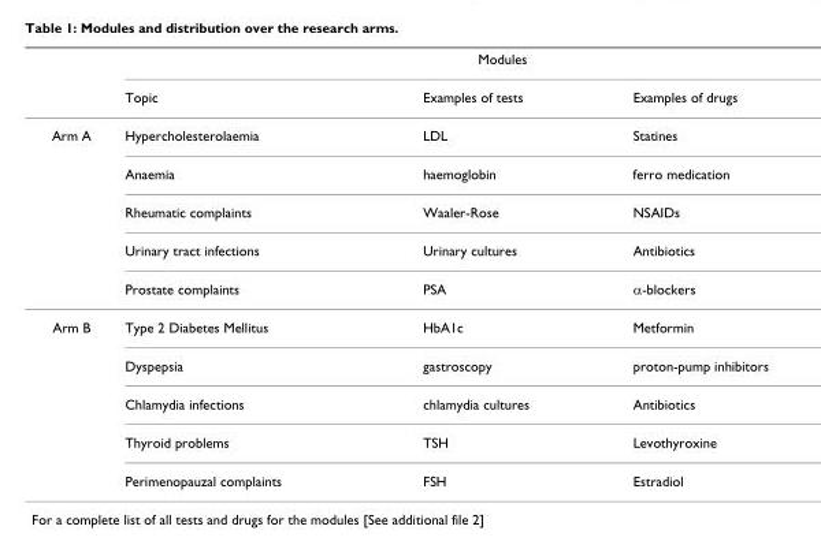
<table><thead><tr><td rowspan="2"></td><td colspan="3">Modules</td></tr><tr><td>Topic</td><td>Examples of tests</td><td>Examples of drugs</td></tr></thead><tbody><tr><td rowspan="5">Arm A</td><td>Hypercholesterolaemia</td><td>LDL</td><td>Statines</td></tr><tr><td>Anaemia</td><td>haemoglobin</td><td>ferro medication</td></tr><tr><td>Rheumatic complaints</td><td>Waaler-Rose</td><td>NSAIDs</td></tr><tr><td>Urinary tract infections</td><td>Urinary cultures</td><td>Antibiotics</td></tr><tr><td>Prostate complaints</td><td>PSA</td><td>α-blockers</td></tr><tr><td rowspan="5">Arm B</td><td>Type 2 Diabetes Mellitus</td><td>HbA1c</td><td>Metformin</td></tr><tr><td>Dyspepsia</td><td>gastroscopy</td><td>proton-pump inhibitors</td></tr><tr><td>Chlamydia infections</td><td>chlamydia cultures</td><td>Antibiotics</td></tr><tr><td>Thyroid problems</td><td>TSH</td><td>Levothyroxine</td></tr><tr><td>Perimenopauzal complaints</td><td>FSH</td><td>Estradiol</td></tr></tbody></table>